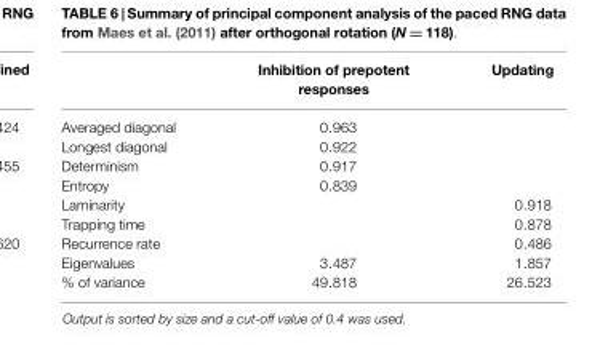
<table><thead><tr><td></td><td>Inhibition of prepotent responses</td><td>Updating</td></tr></thead><tbody><tr><td>Averaged diagonal</td><td>0.963</td><td></td></tr><tr><td>Longest diagonal</td><td>0.922</td><td></td></tr><tr><td>Determinism</td><td>0.917</td><td></td></tr><tr><td>Entropy</td><td>0.839</td><td></td></tr><tr><td>Laminarity</td><td></td><td>0.918</td></tr><tr><td>Trapping time</td><td></td><td>0.878</td></tr><tr><td>Recurrence rate</td><td></td><td>0.486</td></tr><tr><td>Eigenvalues</td><td>3.487</td><td>1.857</td></tr><tr><td>% of variance</td><td>49.818</td><td>26.523</td></tr></tbody></table>